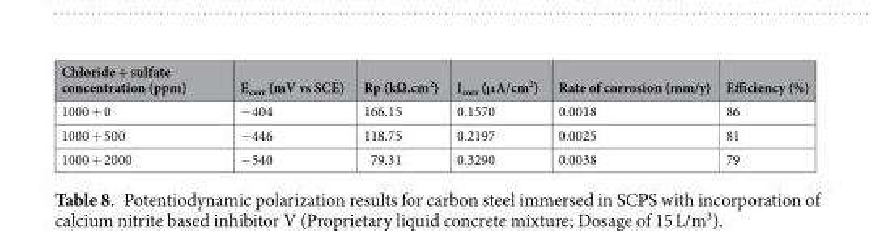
<table><thead><tr><td>Chloride + sulfate concentration (ppm)</td><td>E<sub>corr</sub> (mV vs SCE)</td><td>Rp (kΩ.cm<sup>2</sup>)</td><td>I<sub>corr</sub> (μA/cm<sup>2</sup>)</td><td>Rate of corrosion (mm/y)</td><td>Efficiency (%)</td></tr></thead><tbody><tr><td>1000 + 0</td><td>−404</td><td>166.15</td><td>0.1570</td><td>0.0018</td><td>86</td></tr><tr><td>1000 + 500</td><td>−446</td><td>118.75</td><td>0.2197</td><td>0.0025</td><td>81</td></tr><tr><td>1000 + 2000</td><td>−540</td><td>79.31</td><td>0.3290</td><td>0.0038</td><td>79</td></tr></tbody></table>